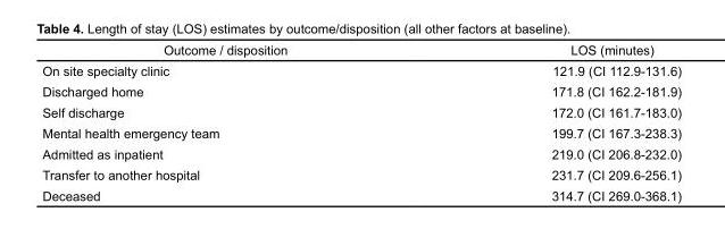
<table><thead><tr><td>Outcome / disposition</td><td>LOS (minutes)</td></tr></thead><tbody><tr><td>On site specialty clinic</td><td>121.9 (CI 112.9-131.6)</td></tr><tr><td>Discharged home</td><td>171.8 (CI 162.2-181.9)</td></tr><tr><td>Self discharge</td><td>172.0 (CI 161.7-183.0)</td></tr><tr><td>Mental health emergency team</td><td>199.7 (CI 167.3-238.3)</td></tr><tr><td>Admitted as inpatient</td><td>219.0 (CI 206.8-232.0)</td></tr><tr><td>Transfer to another hospital</td><td>231.7 (CI 209.6-256.1)</td></tr><tr><td>Deceased</td><td>314.7 (CI 269.0-368.1)</td></tr></tbody></table>